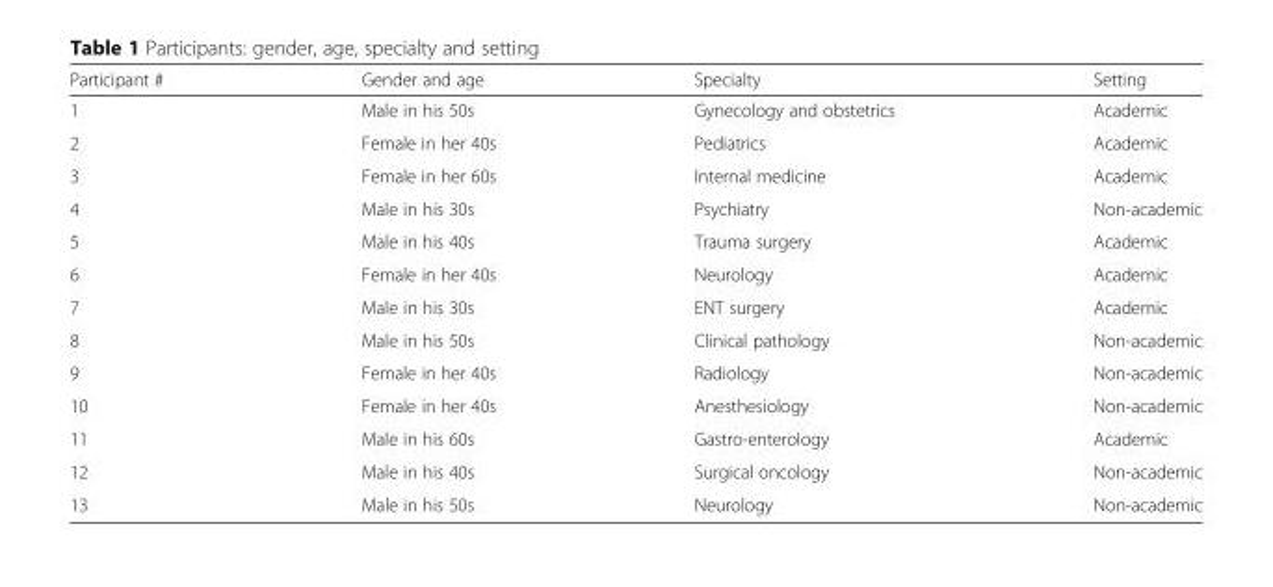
<table><thead><tr><td>Participant #</td><td>Gender and age</td><td>Specialty</td><td>Setting</td></tr></thead><tbody><tr><td>1</td><td>Male in his 50s</td><td>Gynecology and obstetrics</td><td>Academic</td></tr><tr><td>2</td><td>Female in her 40s</td><td>Pediatrics</td><td>Academic</td></tr><tr><td>3</td><td>Female in her 60s</td><td>Internal medicine</td><td>Academic</td></tr><tr><td>4</td><td>Male in his 30s</td><td>Psychiatry</td><td>Non-academic</td></tr><tr><td>5</td><td>Male in his 40s</td><td>Trauma surgery</td><td>Academic</td></tr><tr><td>6</td><td>Female in her 40s</td><td>Neurology</td><td>Academic</td></tr><tr><td>7</td><td>Male in his 30s</td><td>ENT surgery</td><td>Academic</td></tr><tr><td>8</td><td>Male in his 50s</td><td>Clinical pathology</td><td>Non-academic</td></tr><tr><td>9</td><td>Female in her 40s</td><td>Radiology</td><td>Non-academic</td></tr><tr><td>10</td><td>Female in her 40s</td><td>Anesthesiology</td><td>Non-academic</td></tr><tr><td>11</td><td>Male in his 60s</td><td>Gastro-enterology</td><td>Academic</td></tr><tr><td>12</td><td>Male in his 40s</td><td>Surgical oncology</td><td>Non-academic</td></tr><tr><td>13</td><td>Male in his 50s</td><td>Neurology</td><td>Non-academic</td></tr></tbody></table>